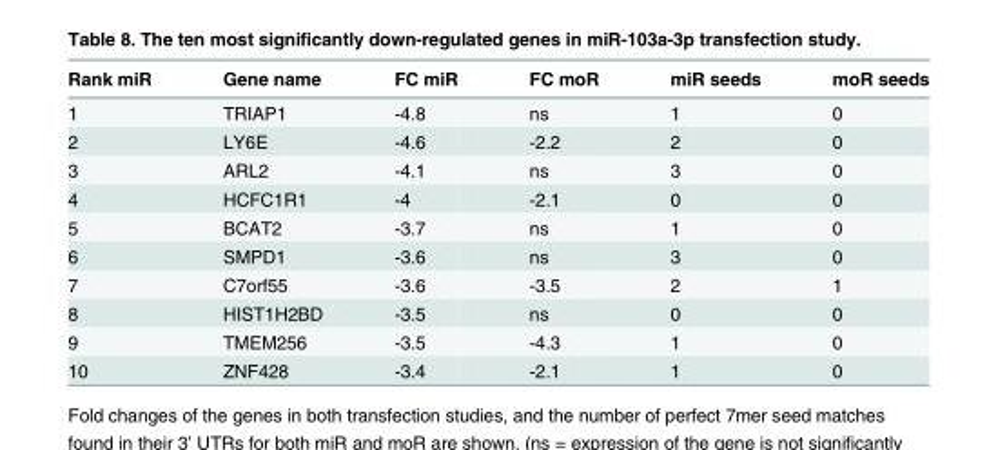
<table><thead><tr><td>Rank miR</td><td>Gene name</td><td>FC miR</td><td>FC moR</td><td>miR seeds</td><td>moR seeds</td></tr></thead><tbody><tr><td>1</td><td>TRIAP1</td><td>-4.8</td><td>ns</td><td>1</td><td>0</td></tr><tr><td>2</td><td>LY6E</td><td>-4.6</td><td>-2.2</td><td>2</td><td>0</td></tr><tr><td>3</td><td>ARL2</td><td>-4.1</td><td>ns</td><td>3</td><td>0</td></tr><tr><td>4</td><td>HCFC1R1</td><td>-4</td><td>-2.1</td><td>0</td><td>0</td></tr><tr><td>5</td><td>BCAT2</td><td>-3.7</td><td>ns</td><td>1</td><td>0</td></tr><tr><td>6</td><td>SMPD1</td><td>-3.6</td><td>ns</td><td>3</td><td>0</td></tr><tr><td>7</td><td>C7orf55</td><td>-3.6</td><td>-3.5</td><td>2</td><td>1</td></tr><tr><td>8</td><td>HIST1H2BD</td><td>-3.5</td><td>ns</td><td>0</td><td>0</td></tr><tr><td>9</td><td>TMEM256</td><td>-3.5</td><td>-4.3</td><td>1</td><td>0</td></tr><tr><td>10</td><td>ZNF428</td><td>-3.4</td><td>-2.1</td><td>1</td><td>0</td></tr></tbody></table>